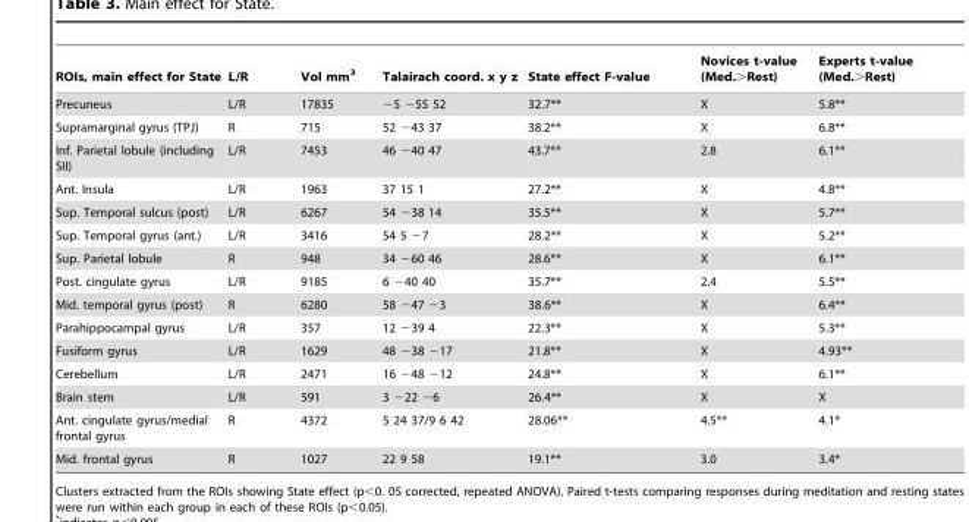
<table><thead><tr><td>ROIs, main effect for State</td><td>L/R</td><td>Vol mm<sup>3</sup></td><td>Talairach coord. x y z</td><td>State effect F-value</td><td>Novices t-value (Med.&gt;Rest)</td><td>Experts t-value (Med.&gt;Rest)</td></tr></thead><tbody><tr><td>Precuneus</td><td>L/R</td><td>17835</td><td>−5 −55 52</td><td>32.7**</td><td>X</td><td>5.8**</td></tr><tr><td>Supramarginal gyrus (TPJ)</td><td>R</td><td>715</td><td>52 −43 37</td><td>38.2**</td><td>X</td><td>6.8**</td></tr><tr><td>Inf. Parietal lobule (including SII)</td><td>L/R</td><td>7453</td><td>46 −40 47</td><td>43.7**</td><td>2.8</td><td>6.1**</td></tr><tr><td>Ant. Insula</td><td>L/R</td><td>1963</td><td>37 15 1</td><td>27.2**</td><td>X</td><td>4.8**</td></tr><tr><td>Sup. Temporal sulcus (post)</td><td>L/R</td><td>6267</td><td>54 −38 14</td><td>35.5**</td><td>X</td><td>5.7**</td></tr><tr><td>Sup. Temporal gyrus (ant.)</td><td>L/R</td><td>3416</td><td>54 5 −7</td><td>28.2**</td><td>X</td><td>5.2**</td></tr><tr><td>Sup. Parietal lobule</td><td>R</td><td>948</td><td>34 −60 46</td><td>28.6**</td><td>X</td><td>6.1**</td></tr><tr><td>Post. cingulate gyrus</td><td>L/R</td><td>9185</td><td>6 −40 40</td><td>35.7**</td><td>2.4</td><td>5.5**</td></tr><tr><td>Mid. temporal gyrus (post)</td><td>R</td><td>6280</td><td>58 −47 −3</td><td>38.6**</td><td>X</td><td>6.4**</td></tr><tr><td>Parahippocampal gyrus</td><td>L/R</td><td>357</td><td>12 −39 4</td><td>22.3**</td><td>X</td><td>5.3**</td></tr><tr><td>Fusiform gyrus</td><td>L/R</td><td>1629</td><td>48 −38 −17</td><td>21.8**</td><td>X</td><td>4.93**</td></tr><tr><td>Cerebellum</td><td>L/R</td><td>2471</td><td>16 −48 −12</td><td>24.8**</td><td>X</td><td>6.1**</td></tr><tr><td>Brain stem</td><td>L/R</td><td>591</td><td>3 −22 −6</td><td>26.4**</td><td>X</td><td>X</td></tr><tr><td>Ant. cingulate gyrus/medial frontal gyrus</td><td>R</td><td>4372</td><td>5 24 37/9 6 42</td><td>28.06**</td><td>4.5**</td><td>4.1*</td></tr><tr><td>Mid. frontal gyrus</td><td>R</td><td>1027</td><td>22 9 58</td><td>19.1**</td><td>3.0</td><td>3.4*</td></tr></tbody></table>